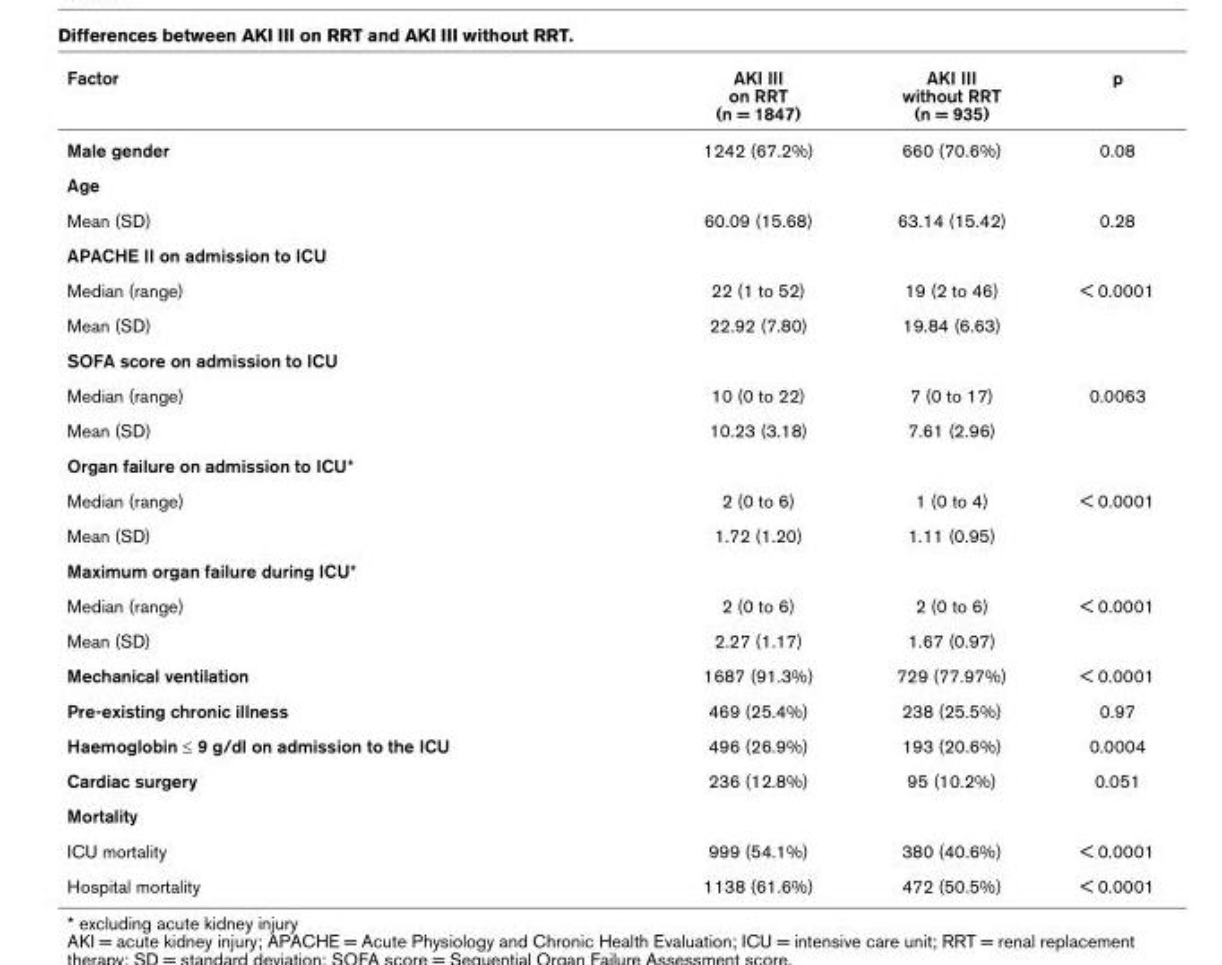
<table><thead><tr><td>Factor</td><td>AKI III on RRT (n = 1847)</td><td>AKI III without RRT (n = 935)</td><td>p</td></tr></thead><tbody><tr><td>Male gender</td><td>1242 (67.2%)</td><td>660 (70.6%)</td><td>0.08</td></tr><tr><td colspan="4">Age</td></tr><tr><td>Mean (SD)</td><td>60.09 (15.68)</td><td>63.14 (15.42)</td><td>0.28</td></tr><tr><td colspan="4">APACHE II on admission to ICU</td></tr><tr><td>Median (range)</td><td>22 (1 to 52)</td><td>19 (2 to 46)</td><td>&lt; 0.0001</td></tr><tr><td>Mean (SD)</td><td>22.92 (7.80)</td><td>19.84 (6.63)</td><td></td></tr><tr><td colspan="4">SOFA score on admission to ICU</td></tr><tr><td>Median (range)</td><td>10 (0 to 22)</td><td>7 (0 to 17)</td><td>0.0063</td></tr><tr><td>Mean (SD)</td><td>10.23 (3.18)</td><td>7.61 (2.96)</td><td></td></tr><tr><td colspan="4">Organ failure on admission to ICU*</td></tr><tr><td>Median (range)</td><td>2 (0 to 6)</td><td>1 (0 to 4)</td><td>&lt; 0.0001</td></tr><tr><td>Mean (SD)</td><td>1.72 (1.20)</td><td>1.11 (0.95)</td><td></td></tr><tr><td colspan="4">Maximum organ failure during ICU*</td></tr><tr><td>Median (range)</td><td>2 (0 to 6)</td><td>2 (0 to 6)</td><td>&lt; 0.0001</td></tr><tr><td>Mean (SD)</td><td>2.27 (1.17)</td><td>1.67 (0.97)</td><td></td></tr><tr><td>Mechanical ventilation</td><td>1687 (91.3%)</td><td>729 (77.97%)</td><td>&lt; 0.0001</td></tr><tr><td>Pre-existing chronic illness</td><td>469 (25.4%)</td><td>238 (25.5%)</td><td>0.97</td></tr><tr><td>Haemoglobin ≤ 9 g/dl on admission to the ICU</td><td>496 (26.9%)</td><td>193 (20.6%)</td><td>0.0004</td></tr><tr><td>Cardiac surgery</td><td>236 (12.8%)</td><td>95 (10.2%)</td><td>0.051</td></tr><tr><td colspan="4">Mortality</td></tr><tr><td>ICU mortality</td><td>999 (54.1%)</td><td>380 (40.6%)</td><td>&lt; 0.0001</td></tr><tr><td>Hospital mortality</td><td>1138 (61.6%)</td><td>472 (50.5%)</td><td>&lt; 0.0001</td></tr></tbody></table>